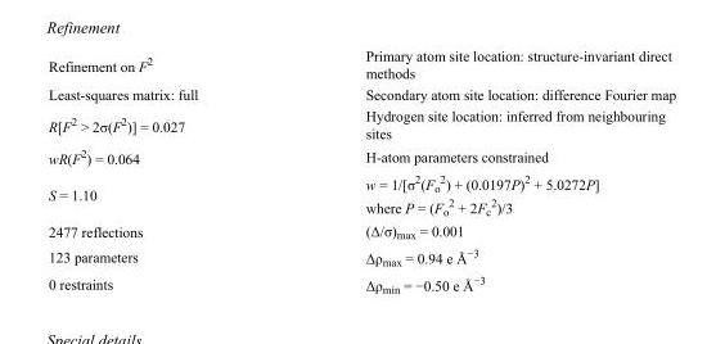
<table><tbody><tr><td>Refinement on F<sup>2</sup></td><td>Primary atom site location: structure-invariant direct methods</td></tr><tr><td>Least-squares matrix: full</td><td>Secondary atom site location: difference Fourier map</td></tr><tr><td>R[F<sup>2</sup> &gt; 2σ(F<sup>2</sup>)] = 0.027</td><td>Hydrogen site location: inferred from neighbouring sites</td></tr><tr><td>wR(F<sup>2</sup>) = 0.064</td><td>H-atom parameters constrained</td></tr><tr><td>S = 1.10</td><td>w = 1/[σ<sup>2</sup>(F<sub>o</sub> <sup>2</sup>) + (0.0197P)<sup>2</sup> + 5.0272P] where P = (F<sub>o</sub> <sup>2</sup> + 2F<sub>c</sub> <sup>2</sup>)/3</td></tr><tr><td>2477 reflections</td><td>(Δ/σ)<sub>max</sub> = 0.001</td></tr><tr><td>123 parameters</td><td>Δρ<sub>max</sub> = 0.94 e Å<sup>−3</sup></td></tr><tr><td>0 restraints</td><td>Δρ<sub>min</sub> = −0.50 e Å<sup>−3</sup></td></tr></tbody></table>